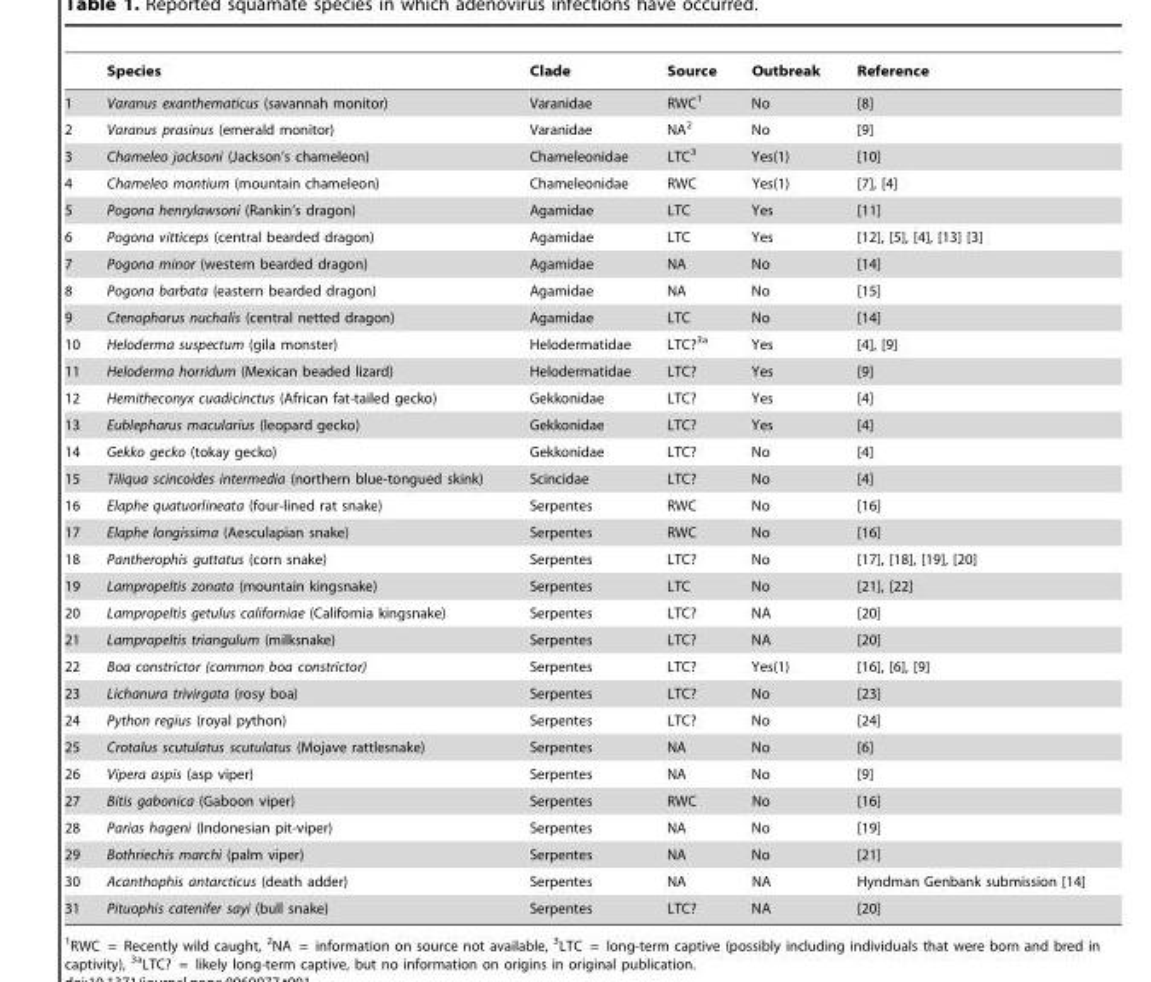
<table><thead><tr><td></td><td>Species</td><td>Clade</td><td>Source</td><td>Outbreak</td><td>Reference</td></tr></thead><tbody><tr><td>1</td><td>Varanus exanthematicus (savannah monitor)</td><td>Varanidae</td><td>RWC<sup>1</sup></td><td>No</td><td>[8]</td></tr><tr><td>2</td><td>Varanus prasinus (emerald monitor)</td><td>Varanidae</td><td>NA<sup>2</sup></td><td>No</td><td>[9]</td></tr><tr><td>3</td><td>Chameleo jacksoni (Jackson’s chameleon)</td><td>Chameleonidae</td><td>LTC<sup>3</sup></td><td>Yes(1)</td><td>[10]</td></tr><tr><td>4</td><td>Chameleo montium (mountain chameleon)</td><td>Chameleonidae</td><td>RWC</td><td>Yes(1)</td><td>[7], [4]</td></tr><tr><td>5</td><td>Pogona henrylawsoni (Rankin’s dragon)</td><td>Agamidae</td><td>LTC</td><td>Yes</td><td>[11]</td></tr><tr><td>6</td><td>Pogona vitticeps (central bearded dragon)</td><td>Agamidae</td><td>LTC</td><td>Yes</td><td>[12], [5], [4], [13] [3]</td></tr><tr><td>7</td><td>Pogona minor (western bearded dragon)</td><td>Agamidae</td><td>NA</td><td>No</td><td>[14]</td></tr><tr><td>8</td><td>Pogona barbata (eastern bearded dragon)</td><td>Agamidae</td><td>NA</td><td>No</td><td>[15]</td></tr><tr><td>9</td><td>Ctenophorus nuchalis (central netted dragon)</td><td>Agamidae</td><td>LTC</td><td>No</td><td>[14]</td></tr><tr><td>10</td><td>Heloderma suspectum (gila monster)</td><td>Helodermatidae</td><td>LTC?<sup>3a</sup></td><td>Yes</td><td>[4], [9]</td></tr><tr><td>11</td><td>Heloderma horridum (Mexican beaded lizard)</td><td>Helodermatidae</td><td>LTC?</td><td>Yes</td><td>[9]</td></tr><tr><td>12</td><td>Hemitheconyx cuadicinctus (African fat-tailed gecko)</td><td>Gekkonidae</td><td>LTC?</td><td>Yes</td><td>[4]</td></tr><tr><td>13</td><td>Eublepharus macularius (leopard gecko)</td><td>Gekkonidae</td><td>LTC?</td><td>Yes</td><td>[4]</td></tr><tr><td>14</td><td>Gekko gecko (tokay gecko)</td><td>Gekkonidae</td><td>LTC?</td><td>No</td><td>[4]</td></tr><tr><td>15</td><td>Tiliqua scincoides intermedia (northern blue-tongued skink)</td><td>Scincidae</td><td>LTC?</td><td>No</td><td>[4]</td></tr><tr><td>16</td><td>Elaphe quatuorlineata (four-lined rat snake)</td><td>Serpentes</td><td>RWC</td><td>No</td><td>[16]</td></tr><tr><td>17</td><td>Elaphe longissima (Aesculapian snake)</td><td>Serpentes</td><td>RWC</td><td>No</td><td>[16]</td></tr><tr><td>18</td><td>Pantherophis guttatus (corn snake)</td><td>Serpentes</td><td>LTC?</td><td>No</td><td>[17], [18], [19], [20]</td></tr><tr><td>19</td><td>Lampropeltis zonata (mountain kingsnake)</td><td>Serpentes</td><td>LTC</td><td>No</td><td>[21], [22]</td></tr><tr><td>20</td><td>Lampropeltis getulus californiae (California kingsnake)</td><td>Serpentes</td><td>LTC?</td><td>NA</td><td>[20]</td></tr><tr><td>21</td><td>Lampropeltis triangulum (milksnake)</td><td>Serpentes</td><td>LTC?</td><td>NA</td><td>[20]</td></tr><tr><td>22</td><td>Boa constrictor (common boa constrictor)</td><td>Serpentes</td><td>LTC?</td><td>Yes(1)</td><td>[16], [6], [9]</td></tr><tr><td>23</td><td>Lichanura trivirgata (rosy boa)</td><td>Serpentes</td><td>LTC?</td><td>No</td><td>[23]</td></tr><tr><td>24</td><td>Python regius (royal python)</td><td>Serpentes</td><td>LTC?</td><td>No</td><td>[24]</td></tr><tr><td>25</td><td>Crotalus scutulatus scutulatus (Mojave rattlesnake)</td><td>Serpentes</td><td>NA</td><td>No</td><td>[6]</td></tr><tr><td>26</td><td>Vipera aspis (asp viper)</td><td>Serpentes</td><td>NA</td><td>No</td><td>[9]</td></tr><tr><td>27</td><td>Bitis gabonica (Gaboon viper)</td><td>Serpentes</td><td>RWC</td><td>No</td><td>[16]</td></tr><tr><td>28</td><td>Parias hageni (Indonesian pit-viper)</td><td>Serpentes</td><td>NA</td><td>No</td><td>[19]</td></tr><tr><td>29</td><td>Bothriechis marchi (palm viper)</td><td>Serpentes</td><td>NA</td><td>No</td><td>[21]</td></tr><tr><td>30</td><td>Acanthophis antarcticus (death adder)</td><td>Serpentes</td><td>NA</td><td>NA</td><td>Hyndman Genbank submission [14]</td></tr><tr><td>31</td><td>Pituophis catenifer sayi (bull snake)</td><td>Serpentes</td><td>LTC?</td><td>NA</td><td>[20]</td></tr></tbody></table>